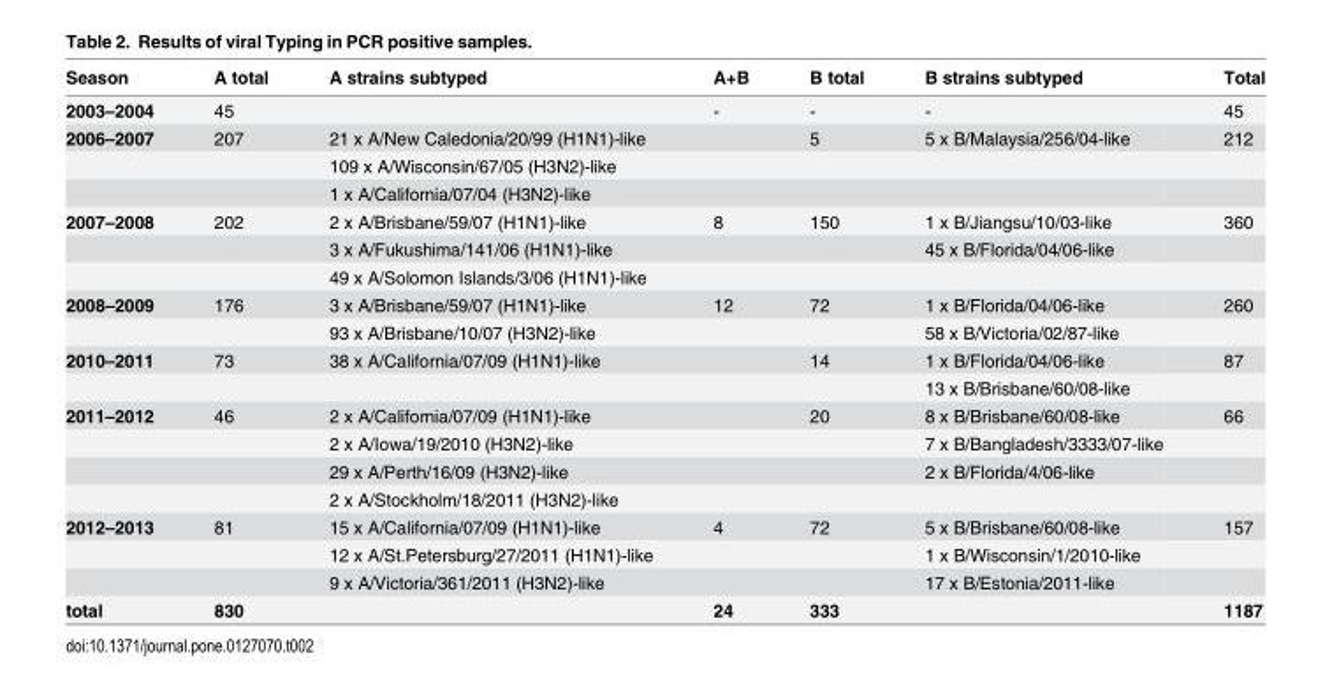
<table><thead><tr><td>Season</td><td>A total</td><td>A strains subtyped</td><td>A+B</td><td>B total</td><td>B strains subtyped</td><td>Total</td></tr></thead><tbody><tr><td>2003–2004</td><td>45</td><td></td><td>-</td><td>-</td><td>-</td><td>45</td></tr><tr><td rowspan="3">2006–2007</td><td>207</td><td>21 x A/New Caledonia/20/99 (H1N1)-like</td><td></td><td>5</td><td>5 x B/Malaysia/256/04-like</td><td>212</td></tr><tr><td></td><td>109 x A/Wisconsin/67/05 (H3N2)-like</td><td></td><td></td><td></td><td></td></tr><tr><td></td><td>1 x A/California/07/04 (H3N2)-like</td><td></td><td></td><td></td><td></td></tr><tr><td rowspan="3">2007–2008</td><td>202</td><td>2 x A/Brisbane/59/07 (H1N1)-like</td><td>8</td><td>150</td><td>1 x B/Jiangsu/10/03-like</td><td>360</td></tr><tr><td></td><td>3 x A/Fukushima/141/06 (H1N1)-like</td><td></td><td></td><td>45 x B/Florida/04/06-like</td><td></td></tr><tr><td></td><td>49 x A/Solomon Islands/3/06 (H1N1)-like</td><td></td><td></td><td></td><td></td></tr><tr><td rowspan="2">2008–2009</td><td>176</td><td>3 x A/Brisbane/59/07 (H1N1)-like</td><td>12</td><td>72</td><td>1 x B/Florida/04/06-like</td><td>260</td></tr><tr><td></td><td>93 x A/Brisbane/10/07 (H3N2)-like</td><td></td><td></td><td>58 x B/Victoria/02/87-like</td><td></td></tr><tr><td rowspan="2">2010–2011</td><td>73</td><td>38 x A/California/07/09 (H1N1)-like</td><td></td><td>14</td><td>1 x B/Florida/04/06-like</td><td>87</td></tr><tr><td></td><td></td><td></td><td></td><td>13 x B/Brisbane/60/08-like</td><td></td></tr><tr><td rowspan="4">2011–2012</td><td>46</td><td>2 x A/California/07/09 (H1N1)-like</td><td></td><td>20</td><td>8 x B/Brisbane/60/08-like</td><td>66</td></tr><tr><td></td><td>2 x A/Iowa/19/2010 (H3N2)-like</td><td></td><td></td><td>7 x B/Bangladesh/3333/07-like</td><td></td></tr><tr><td></td><td>29 x A/Perth/16/09 (H3N2)-like</td><td></td><td></td><td>2 x B/Florida/4/06-like</td><td></td></tr><tr><td></td><td>2 x A/Stockholm/18/2011 (H3N2)-like</td><td></td><td></td><td></td><td></td></tr><tr><td rowspan="3">2012–2013</td><td>81</td><td>15 x A/California/07/09 (H1N1)-like</td><td>4</td><td>72</td><td>5 x B/Brisbane/60/08-like</td><td>157</td></tr><tr><td></td><td>12 x A/St.Petersburg/27/2011 (H1N1)-like</td><td></td><td></td><td>1 x B/Wisconsin/1/2010-like</td><td></td></tr><tr><td></td><td>9 x A/Victoria/361/2011 (H3N2)-like</td><td></td><td></td><td>17 x B/Estonia/2011-like</td><td></td></tr><tr><td>total</td><td>830</td><td></td><td>24</td><td>333</td><td></td><td>1187</td></tr></tbody></table>